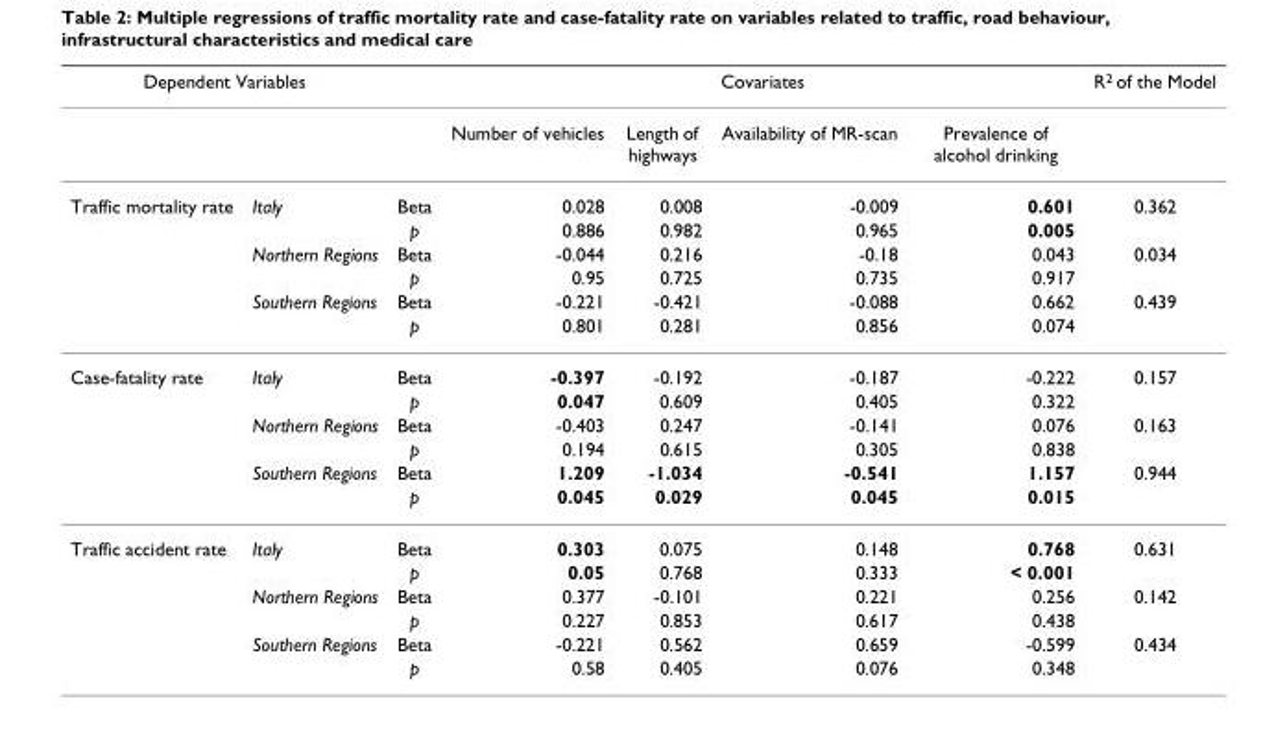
<table><thead><tr><td colspan="2">Dependent Variables</td><td rowspan="2"></td><td colspan="4">Covariates</td><td rowspan="2">R<sup>2</sup> of the Model</td></tr><tr><td></td><td></td><td>Number of vehicles</td><td>Length of highways</td><td>Availability of MR-scan</td><td>Prevalence of alcohol drinking</td></tr></thead><tbody><tr><td rowspan="6">Traffic mortality rate</td><td>Italy</td><td>Beta</td><td>0.028</td><td>0.008</td><td>-0.009</td><td>0.601</td><td>0.362</td></tr><tr><td></td><td>p</td><td>0.886</td><td>0.982</td><td>0.965</td><td>0.005</td><td></td></tr><tr><td>Northern Regions</td><td>Beta</td><td>-0.044</td><td>0.216</td><td>-0.18</td><td>0.043</td><td>0.034</td></tr><tr><td></td><td>p</td><td>0.95</td><td>0.725</td><td>0.735</td><td>0.917</td><td></td></tr><tr><td>Southern Regions</td><td>Beta</td><td>-0.221</td><td>-0.421</td><td>-0.088</td><td>0.662</td><td>0.439</td></tr><tr><td></td><td>p</td><td>0.801</td><td>0.281</td><td>0.856</td><td>0.074</td><td></td></tr><tr><td rowspan="6">Case-fatality rate</td><td>Italy</td><td>Beta</td><td>-0.397</td><td>-0.192</td><td>-0.187</td><td>-0.222</td><td>0.157</td></tr><tr><td></td><td>p</td><td>0.047</td><td>0.609</td><td>0.405</td><td>0.322</td><td></td></tr><tr><td>Northern Regions</td><td>Beta</td><td>-0.403</td><td>0.247</td><td>-0.141</td><td>0.076</td><td>0.163</td></tr><tr><td></td><td>p</td><td>0.194</td><td>0.615</td><td>0.305</td><td>0.838</td><td></td></tr><tr><td>Southern Regions</td><td>Beta</td><td>1.209</td><td>-1.034</td><td>-0.541</td><td>1.157</td><td>0.944</td></tr><tr><td></td><td>p</td><td>0.045</td><td>0.029</td><td>0.045</td><td>0.015</td><td></td></tr><tr><td rowspan="6">Traffic accident rate</td><td>Italy</td><td>Beta</td><td>0.303</td><td>0.075</td><td>0.148</td><td>0.768</td><td>0.631</td></tr><tr><td></td><td>p</td><td>0.05</td><td>0.768</td><td>0.333</td><td>&lt; 0.001</td><td></td></tr><tr><td>Northern Regions</td><td>Beta</td><td>0.377</td><td>-0.101</td><td>0.221</td><td>0.256</td><td>0.142</td></tr><tr><td></td><td>p</td><td>0.227</td><td>0.853</td><td>0.617</td><td>0.438</td><td></td></tr><tr><td>Southern Regions</td><td>Beta</td><td>-0.221</td><td>0.562</td><td>0.659</td><td>-0.599</td><td>0.434</td></tr><tr><td></td><td>p</td><td>0.58</td><td>0.405</td><td>0.076</td><td>0.348</td><td></td></tr></tbody></table>